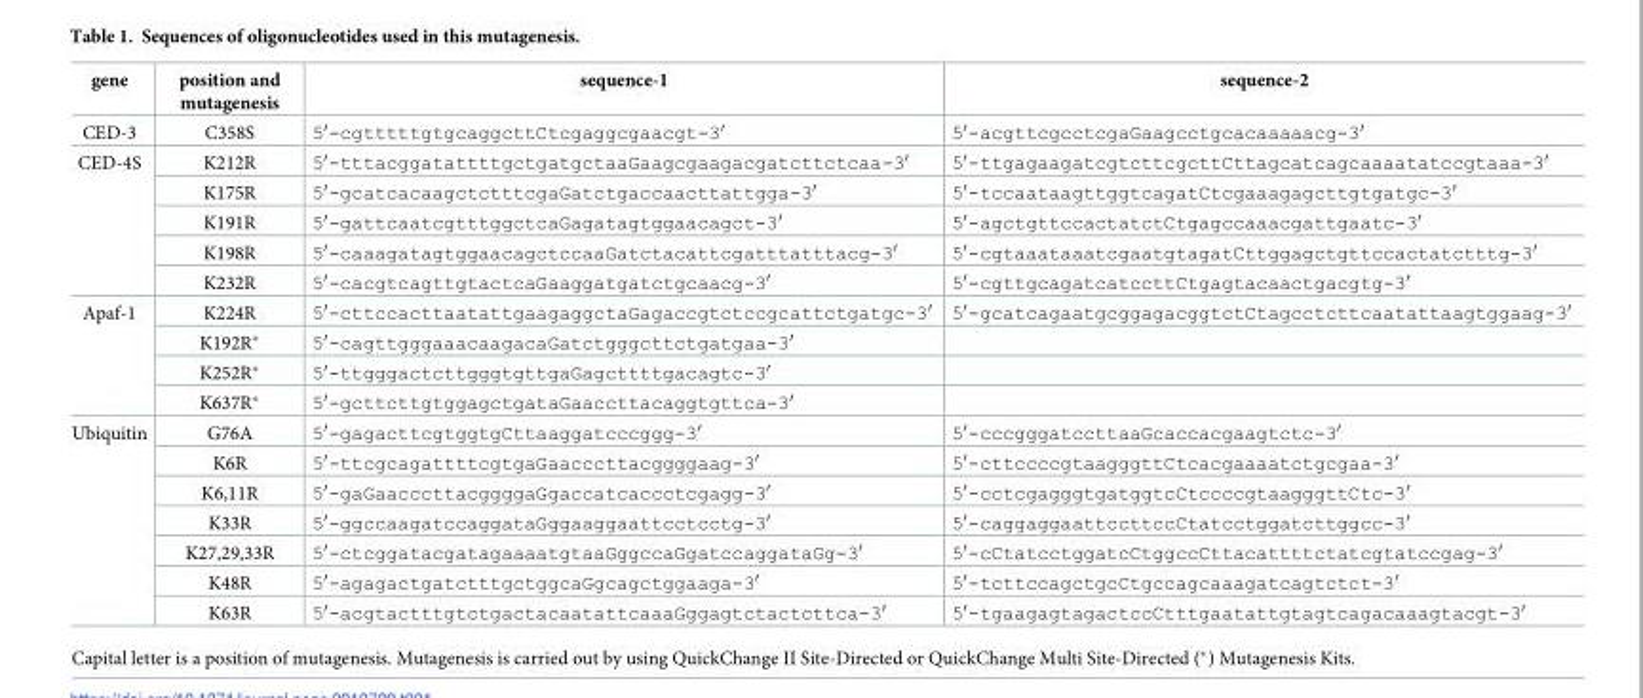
<table><thead><tr><td>gene</td><td>position and mutagenesis</td><td>sequence-1</td><td>sequence-2</td></tr></thead><tbody><tr><td>CED-3</td><td>C358S</td><td>5′-cgtttttgtgcaggcttCtcgaggcgaacgt-3′</td><td>5′-acgttcgcctcgaGaagcctgcacaaaaacg-3′</td></tr><tr><td rowspan="5">CED-4S</td><td>K212R</td><td>5′-tttacggatattttgctgatgctaaGaagcgaagacgatcttctcaa-3′</td><td>5′-ttgagaagatcgtcttcgcttCttagcatcagcaaaatatccgtaaa-3′</td></tr><tr><td>K175R</td><td>5′-gcatcacaagctctttcgaGatctgaccaacttattgga-3′</td><td>5′-tccaataagttggtcagatCtcgaaagagcttgtgatgc-3′</td></tr><tr><td>K191R</td><td>5′-gattcaatcgtttggctcaGagatagtggaacagct-3′</td><td>5′-agctgttccactatctCtgagccaaacgattgaatc-3′</td></tr><tr><td>K198R</td><td>5′-caaagatagtggaacagctccaaGatctacattcgatttatttacg-3′</td><td>5′-cgtaaataaatcgaatgtagatCttggagctgttccactatctttg-3′</td></tr><tr><td>K232R</td><td>5′-cacgtcagttgtactcaGaaggatgatctgcaacg-3′</td><td>5′-cgttgcagatcatccttCtgagtacaactgacgtg-3′</td></tr><tr><td rowspan="4">Apaf-1</td><td>K224R</td><td>5′-cttccacttaatattgaagaggctaGagaccgtctccgcattctgatgc-3′</td><td>5′-gcatcagaatgcggagacggtctCtagcctcttcaatattaagtggaag-3′</td></tr><tr><td>K192R*</td><td>5′-cagttgggaaacaagacaGatctgggcttctgatgaa-3′</td><td></td></tr><tr><td>K252R*</td><td>5′-ttgggactcttgggtgttgaGagcttttgacagtc-3′</td><td></td></tr><tr><td>K637R*</td><td>5′-gcttcttgtggagctgataGaaccttacaggtgttca-3′</td><td></td></tr><tr><td rowspan="7">Ubiquitin</td><td>G76A</td><td>5′-gagacttcgtggtgCttaaggatcccggg-3′</td><td>5′-cccgggatccttaaGcaccacgaagtctc-3′</td></tr><tr><td>K6R</td><td>5′-ttcgcagattttcgtgaGaacccttacggggaag-3′</td><td>5′-cttccccgtaagggttCtcacgaaaatctgcgaa-3′</td></tr><tr><td>K6,11R</td><td>5′-gaGaacccttacggggaGgaccatcaccctcgagg-3′</td><td>5′-cctcgagggtgatggtcCtccccgtaagggttCtc-3′</td></tr><tr><td>K33R</td><td>5′-ggccaagatccaggataGggaaggaattcctcctg-3′</td><td>5′-caggaggaattccttccCtatcctggatcttggcc-3′</td></tr><tr><td>K27,29,33R</td><td>5′-ctcggatacgatagaaaatgtaaGggccaGgatccaggataGg-3′</td><td>5′-cCtatcctggatcCtggccCttacattttctatcgtatccgag-3′</td></tr><tr><td>K48R</td><td>5′-agagactgatctttgctggcaGgcagctggaaga-3′</td><td>5′-tcttccagctgcCtgccagcaaagatcagtctct-3′</td></tr><tr><td>K63R</td><td>5′-acgtactttgtctgactacaatattcaaaGggagtctactcttca-3′</td><td>5′-tgaagagtagactccCtttgaatattgtagtcagacaaagtacgt-3′</td></tr></tbody></table>